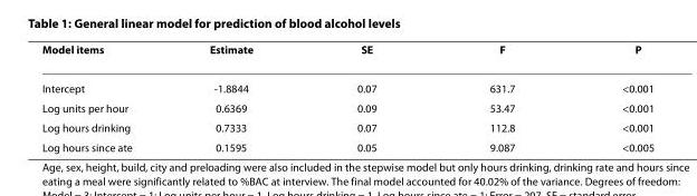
<table><thead><tr><td>Model items</td><td>Estimate</td><td>SE</td><td>F</td><td>P</td></tr></thead><tbody><tr><td>Intercept</td><td>-1.8844</td><td>0.07</td><td>631.7</td><td>&lt;0.001</td></tr><tr><td>Log units per hour</td><td>0.6369</td><td>0.09</td><td>53.47</td><td>&lt;0.001</td></tr><tr><td>Log hours drinking</td><td>0.7333</td><td>0.07</td><td>112.8</td><td>&lt;0.001</td></tr><tr><td>Log hours since ate</td><td>0.1595</td><td>0.05</td><td>9.087</td><td>&lt;0.005</td></tr></tbody></table>